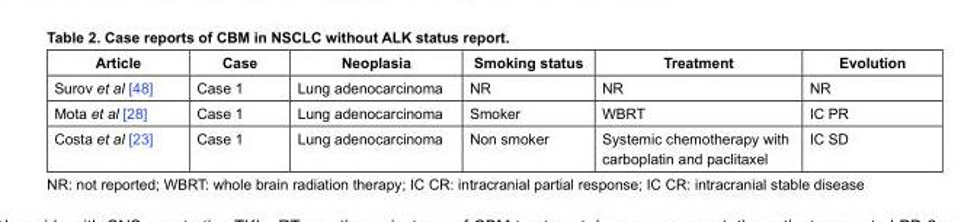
<table><thead><tr><td>Article</td><td>Case</td><td>Neoplasia</td><td>Smoking status</td><td>Treatment</td><td>Evolution</td></tr></thead><tbody><tr><td>Surov et al [48]</td><td>Case 1</td><td>Lung adenocarcinoma</td><td>NR</td><td>NR</td><td>NR</td></tr><tr><td>Mota et al [28]</td><td>Case 1</td><td>Lung adenocarcinoma</td><td>Smoker</td><td>WBRT</td><td>IC PR</td></tr><tr><td>Costa et al [23]</td><td>Case 1</td><td>Lung adenocarcinoma</td><td>Non smoker</td><td>Systemic chemotherapy with carboplatin and paclitaxel</td><td>IC SD</td></tr></tbody></table>